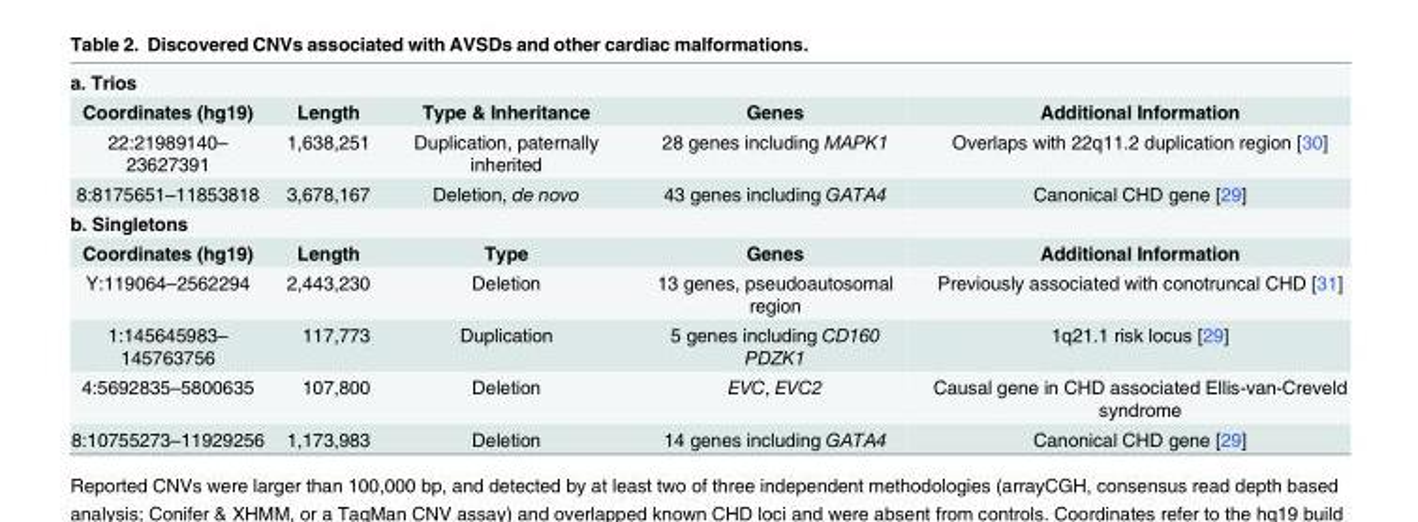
<table><tbody><tr><td colspan="5">a. Trios</td></tr><tr><td>Coordinates (hg19)</td><td>Length</td><td>Type &amp; Inheritance</td><td>Genes</td><td>Additional Information</td></tr><tr><td>22:21989140– 23627391</td><td>1,638,251</td><td>Duplication, paternally inherited</td><td>28 genes including MAPK1</td><td>Overlaps with 22q11.2 duplication region [30]</td></tr><tr><td>8:8175651–11853818</td><td>3,678,167</td><td>Deletion, de novo</td><td>43 genes including GATA4</td><td>Canonical CHD gene [29]</td></tr><tr><td colspan="5">b. Singletons</td></tr><tr><td>Coordinates (hg19)</td><td>Length</td><td>Type</td><td>Genes</td><td>Additional Information</td></tr><tr><td>Y:119064–2562294</td><td>2,443,230</td><td>Deletion</td><td>13 genes, pseudoautosomal region</td><td>Previously associated with conotruncal CHD [31]</td></tr><tr><td>1:145645983– 145763756</td><td>117,773</td><td>Duplication</td><td>5 genes including CD160 PDZK1</td><td>1q21.1 risk locus [29]</td></tr><tr><td>4:5692835–5800635</td><td>107,800</td><td>Deletion</td><td>EVC, EVC2</td><td>Causal gene in CHD associated Ellis-van-Creveld syndrome</td></tr><tr><td>8:10755273–11929256</td><td>1,173,983</td><td>Deletion</td><td>14 genes including GATA4</td><td>Canonical CHD gene [29]</td></tr></tbody></table>